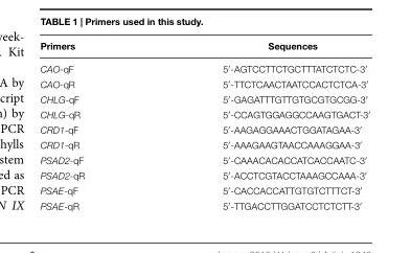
<table><thead><tr><td>Primers</td><td>Sequences</td></tr></thead><tbody><tr><td>CAO-qF</td><td>5′-AGTCCTTCTGCTTTATCTCTC-3′</td></tr><tr><td>CAO-qR</td><td>5′-TTCTCAACTAATCCACTCTCA-3′</td></tr><tr><td>CHLG-qF</td><td>5′-GAGATTTGTTGTGCGTGCGG-3′</td></tr><tr><td>CHLG-qR</td><td>5′-CCAGTGGAGGCCAAGTGACT-3′</td></tr><tr><td>CRD1-qF</td><td>5′-AAGAGGAAACTGGATAGAA-3′</td></tr><tr><td>CRD1-qR</td><td>5′-AAAGAAGTAACCAAAGGAA-3′</td></tr><tr><td>PSAD2-qF</td><td>5′-CAAACACACCATCACCAATC-3′</td></tr><tr><td>PSAD2-qR</td><td>5′-ACCTCGTACCTAAAGCCAAA-3′</td></tr><tr><td>PSAE-qF</td><td>5′-CACCACCATTGTGTCTTTCT-3′</td></tr><tr><td>PSAE-qR</td><td>5′-TTGACCTTGGATCCTCTCTT-3′</td></tr></tbody></table>